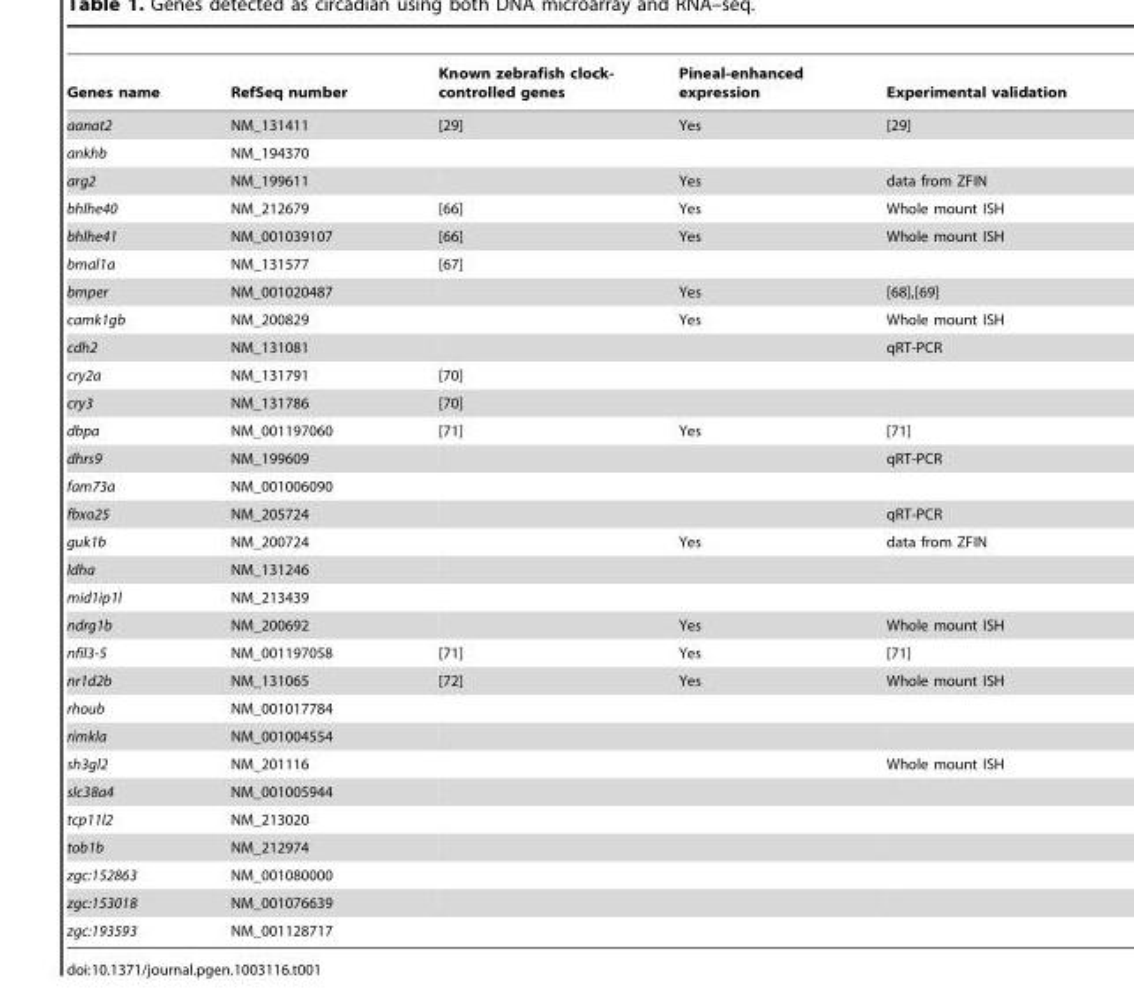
<table><thead><tr><td>Genes name</td><td>RefSeq number</td><td>Known zebrafish clock- controlled genes</td><td>Pineal-enhanced expression</td><td>Experimental validation</td></tr></thead><tbody><tr><td>aanat2</td><td>NM_131411</td><td>[29]</td><td>Yes</td><td>[29]</td></tr><tr><td>ankhb</td><td>NM_194370</td><td></td><td></td><td></td></tr><tr><td>arg2</td><td>NM_199611</td><td></td><td>Yes</td><td>data from ZFIN</td></tr><tr><td>bhlhe40</td><td>NM_212679</td><td>[66]</td><td>Yes</td><td>Whole mount ISH</td></tr><tr><td>bhlhe41</td><td>NM_001039107</td><td>[66]</td><td>Yes</td><td>Whole mount ISH</td></tr><tr><td>bmal1a</td><td>NM_131577</td><td>[67]</td><td></td><td></td></tr><tr><td>bmper</td><td>NM_001020487</td><td></td><td>Yes</td><td>[68],[69]</td></tr><tr><td>camk1gb</td><td>NM_200829</td><td></td><td>Yes</td><td>Whole mount ISH</td></tr><tr><td>cdh2</td><td>NM_131081</td><td></td><td></td><td>qRT-PCR</td></tr><tr><td>cry2a</td><td>NM_131791</td><td>[70]</td><td></td><td></td></tr><tr><td>cry3</td><td>NM_131786</td><td>[70]</td><td></td><td></td></tr><tr><td>dbpa</td><td>NM_001197060</td><td>[71]</td><td>Yes</td><td>[71]</td></tr><tr><td>dhrs9</td><td>NM_199609</td><td></td><td></td><td>qRT-PCR</td></tr><tr><td>fam73a</td><td>NM_001006090</td><td></td><td></td><td></td></tr><tr><td>fbxo25</td><td>NM_205724</td><td></td><td></td><td>qRT-PCR</td></tr><tr><td>guk1b</td><td>NM_200724</td><td></td><td>Yes</td><td>data from ZFIN</td></tr><tr><td>ldha</td><td>NM_131246</td><td></td><td></td><td></td></tr><tr><td>mid1ip1l</td><td>NM_213439</td><td></td><td></td><td></td></tr><tr><td>ndrg1b</td><td>NM_200692</td><td></td><td>Yes</td><td>Whole mount ISH</td></tr><tr><td>nfil3-5</td><td>NM_001197058</td><td>[71]</td><td>Yes</td><td>[71]</td></tr><tr><td>nr1d2b</td><td>NM_131065</td><td>[72]</td><td>Yes</td><td>Whole mount ISH</td></tr><tr><td>rhoub</td><td>NM_001017784</td><td></td><td></td><td></td></tr><tr><td>rimkla</td><td>NM_001004554</td><td></td><td></td><td></td></tr><tr><td>sh3gl2</td><td>NM_201116</td><td></td><td></td><td>Whole mount ISH</td></tr><tr><td>slc38a4</td><td>NM_001005944</td><td></td><td></td><td></td></tr><tr><td>tcp11l2</td><td>NM_213020</td><td></td><td></td><td></td></tr><tr><td>tob1b</td><td>NM_212974</td><td></td><td></td><td></td></tr><tr><td>zgc:152863</td><td>NM_001080000</td><td></td><td></td><td></td></tr><tr><td>zgc:153018</td><td>NM_001076639</td><td></td><td></td><td></td></tr><tr><td>zgc:193593</td><td>NM_001128717</td><td></td><td></td><td></td></tr></tbody></table>